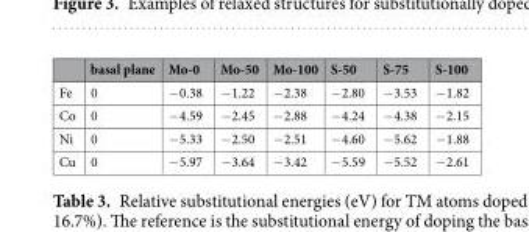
<table><thead><tr><td></td><td>basal plane</td><td>Mo-0</td><td>Mo-50</td><td>Mo-100</td><td>S-50</td><td>S-75</td><td>S-100</td></tr></thead><tbody><tr><td>Fe</td><td>0</td><td>−0.38</td><td>−1.22</td><td>−2.38</td><td>−2.80</td><td>−3.53</td><td>−1.82</td></tr><tr><td>Co</td><td>0</td><td>−4.59</td><td>−2.45</td><td>−2.88</td><td>−4.24</td><td>−4.38</td><td>−2.15</td></tr><tr><td>Ni</td><td>0</td><td>−5.33</td><td>−2.50</td><td>−2.51</td><td>−4.60</td><td>−5.62</td><td>−1.88</td></tr><tr><td>Cu</td><td>0</td><td>−5.97</td><td>−3.64</td><td>−3.42</td><td>−5.59</td><td>−5.52</td><td>−2.61</td></tr></tbody></table>